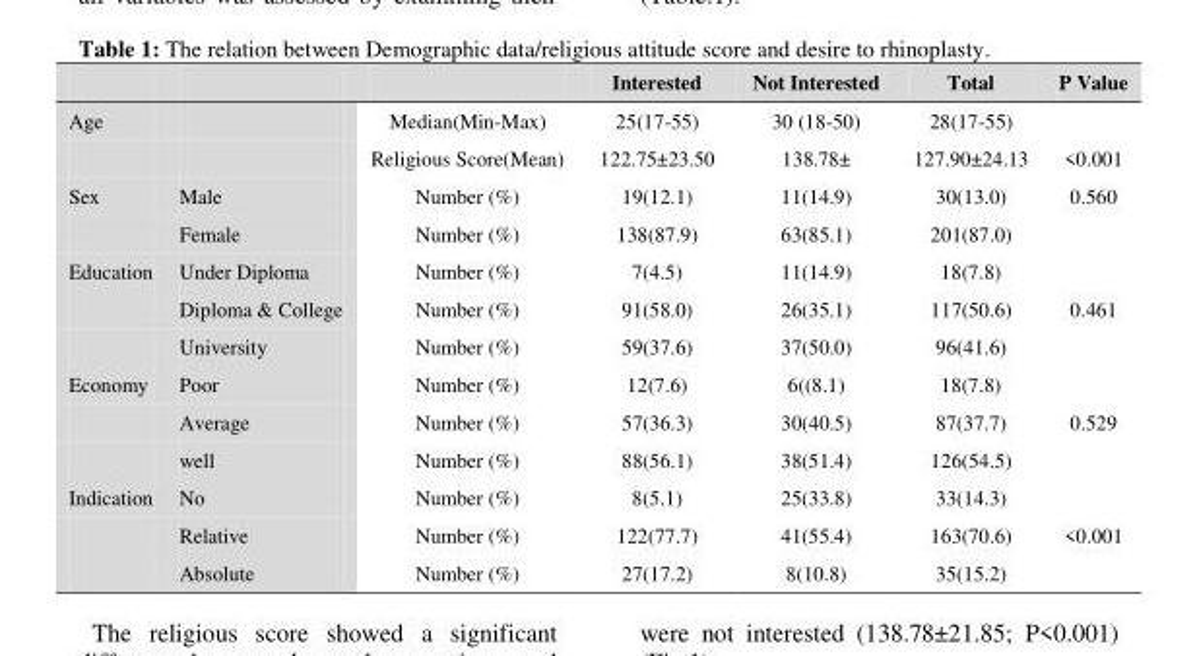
<table><thead><tr><td></td><td></td><td></td><td>Interested</td><td>Not Interested</td><td>Total</td><td>P Value</td></tr></thead><tbody><tr><td rowspan="2">Age</td><td></td><td>Median(Min-Max)</td><td>25(17-55)</td><td>30 (18-50)</td><td>28(17-55)</td><td></td></tr><tr><td></td><td>Religious Score(Mean)</td><td>122.75±23.50</td><td>138.78±</td><td>127.90±24.13</td><td>&lt;0.001</td></tr><tr><td rowspan="2">Sex</td><td>Male</td><td>Number (%)</td><td>19(12.1)</td><td>11(14.9)</td><td>30(13.0)</td><td>0.560</td></tr><tr><td>Female</td><td>Number (%)</td><td>138(87.9)</td><td>63(85.1)</td><td>201(87.0)</td><td></td></tr><tr><td rowspan="3">Education</td><td>Under Diploma</td><td>Number (%)</td><td>7(4.5)</td><td>11(14.9)</td><td>18(7.8)</td><td></td></tr><tr><td>Diploma &amp; College</td><td>Number (%)</td><td>91(58.0)</td><td>26(35.1)</td><td>117(50.6)</td><td>0.461</td></tr><tr><td>University</td><td>Number (%)</td><td>59(37.6)</td><td>37(50.0)</td><td>96(41.6)</td><td></td></tr><tr><td rowspan="3">Economy</td><td>Poor</td><td>Number (%)</td><td>12(7.6)</td><td>6((8.1)</td><td>18(7.8)</td><td></td></tr><tr><td>Average</td><td>Number (%)</td><td>57(36.3)</td><td>30(40.5)</td><td>87(37.7)</td><td>0.529</td></tr><tr><td>well</td><td>Number (%)</td><td>88(56.1)</td><td>38(51.4)</td><td>126(54.5)</td><td></td></tr><tr><td rowspan="3">Indication</td><td>No</td><td>Number (%)</td><td>8(5.1)</td><td>25(33.8)</td><td>33(14.3)</td><td></td></tr><tr><td>Relative</td><td>Number (%)</td><td>122(77.7)</td><td>41(55.4)</td><td>163(70.6)</td><td>&lt;0.001</td></tr><tr><td>Absolute</td><td>Number (%)</td><td>27(17.2)</td><td>8(10.8)</td><td>35(15.2)</td><td></td></tr></tbody></table>